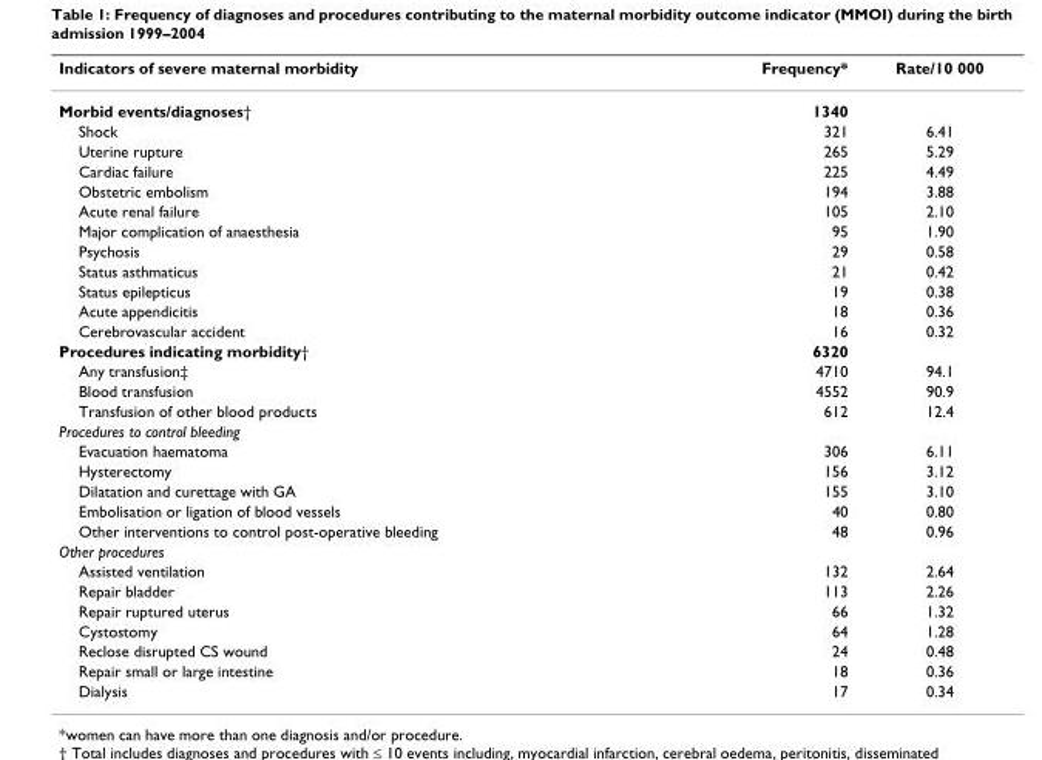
<table><thead><tr><td>Indicators of severe maternal morbidity</td><td>Frequency*</td><td>Rate/10 000</td></tr></thead><tbody><tr><td>Morbid events/diagnoses†</td><td>1340</td><td></td></tr><tr><td>Shock</td><td>321</td><td>6.41</td></tr><tr><td>Uterine rupture</td><td>265</td><td>5.29</td></tr><tr><td>Cardiac failure</td><td>225</td><td>4.49</td></tr><tr><td>Obstetric embolism</td><td>194</td><td>3.88</td></tr><tr><td>Acute renal failure</td><td>105</td><td>2.10</td></tr><tr><td>Major complication of anaesthesia</td><td>95</td><td>1.90</td></tr><tr><td>Psychosis</td><td>29</td><td>0.58</td></tr><tr><td>Status asthmaticus</td><td>21</td><td>0.42</td></tr><tr><td>Status epilepticus</td><td>19</td><td>0.38</td></tr><tr><td>Acute appendicitis</td><td>18</td><td>0.36</td></tr><tr><td>Cerebrovascular accident</td><td>16</td><td>0.32</td></tr><tr><td>Procedures indicating morbidity†</td><td>6320</td><td></td></tr><tr><td>Any transfusion‡</td><td>4710</td><td>94.1</td></tr><tr><td>Blood transfusion</td><td>4552</td><td>90.9</td></tr><tr><td>Transfusion of other blood products</td><td>612</td><td>12.4</td></tr><tr><td colspan="3">Procedures to control bleeding</td></tr><tr><td>Evacuation haematoma</td><td>306</td><td>6.11</td></tr><tr><td>Hysterectomy</td><td>156</td><td>3.12</td></tr><tr><td>Dilatation and curettage with GA</td><td>155</td><td>3.10</td></tr><tr><td>Embolisation or ligation of blood vessels</td><td>40</td><td>0.80</td></tr><tr><td>Other interventions to control post-operative bleeding</td><td>48</td><td>0.96</td></tr><tr><td colspan="3">Other procedures</td></tr><tr><td>Assisted ventilation</td><td>132</td><td>2.64</td></tr><tr><td>Repair bladder</td><td>113</td><td>2.26</td></tr><tr><td>Repair ruptured uterus</td><td>66</td><td>1.32</td></tr><tr><td>Cystostomy</td><td>64</td><td>1.28</td></tr><tr><td>Reclose disrupted CS wound</td><td>24</td><td>0.48</td></tr><tr><td>Repair small or large intestine</td><td>18</td><td>0.36</td></tr><tr><td>Dialysis</td><td>17</td><td>0.34</td></tr></tbody></table>